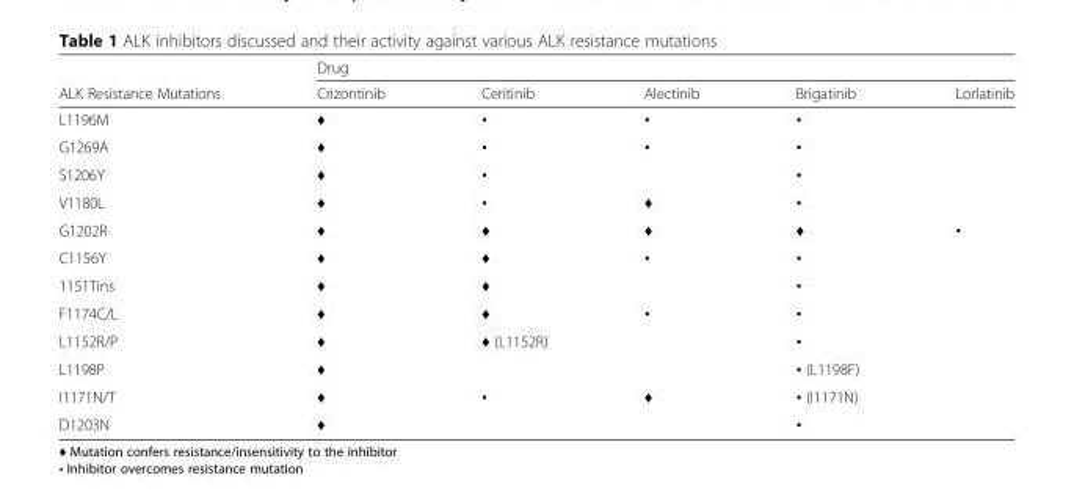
<table><thead><tr><td rowspan="2">ALK Resistance Mutations</td><td colspan="5">Drug</td></tr><tr><td>Crizontinib</td><td>Ceritinib</td><td>Alectinib</td><td>Brigatinib</td><td>Lorlatinib</td></tr></thead><tbody><tr><td>L1196M</td><td>♦</td><td>•</td><td>•</td><td>•</td><td></td></tr><tr><td>G1269A</td><td>♦</td><td>•</td><td>•</td><td>•</td><td></td></tr><tr><td>S1206Y</td><td>♦</td><td>•</td><td></td><td>•</td><td></td></tr><tr><td>V1180L</td><td>♦</td><td>•</td><td>♦</td><td>•</td><td></td></tr><tr><td>G1202R</td><td>♦</td><td>♦</td><td>♦</td><td>♦</td><td>•</td></tr><tr><td>C1156Y</td><td>♦</td><td>♦</td><td>•</td><td>•</td><td></td></tr><tr><td>1151Tins</td><td>♦</td><td>♦</td><td></td><td>•</td><td></td></tr><tr><td>F1174C/L</td><td>♦</td><td>♦</td><td>•</td><td>•</td><td></td></tr><tr><td>L1152R/P</td><td>♦</td><td>♦ (L1152R)</td><td></td><td>•</td><td></td></tr><tr><td>L1198P</td><td>♦</td><td></td><td></td><td>• (L1198F)</td><td></td></tr><tr><td>I1171N/T</td><td>♦</td><td>•</td><td>♦</td><td>• (I1171N)</td><td></td></tr><tr><td>D1203N</td><td>♦</td><td></td><td></td><td>•</td><td></td></tr></tbody></table>